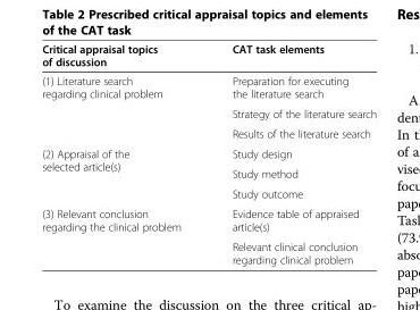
<table><thead><tr><td>Critical appraisal topics of discussion</td><td>CAT task elements</td></tr></thead><tbody><tr><td rowspan="3">(1) Literature search regarding clinical problem</td><td>Preparation for executing the literature search</td></tr><tr><td>Strategy of the literature search</td></tr><tr><td>Results of the literature search</td></tr><tr><td rowspan="3">(2) Appraisal of the selected article(s)</td><td>Study design</td></tr><tr><td>Study method</td></tr><tr><td>Study outcome</td></tr><tr><td rowspan="2">(3) Relevant conclusion regarding the clinical problem</td><td>Evidence table of appraised article(s)</td></tr><tr><td>Relevant clinical conclusion regarding clinical problem</td></tr></tbody></table>